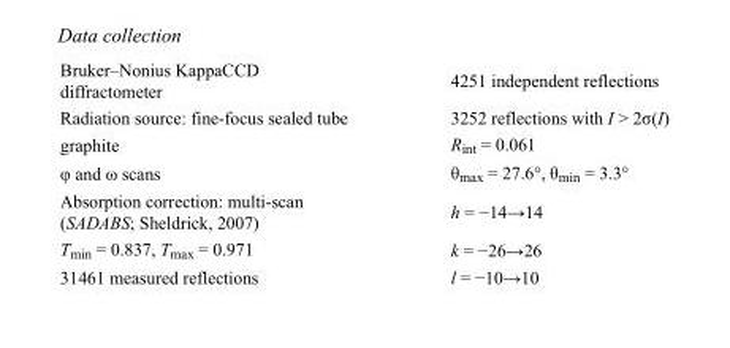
<table><tbody><tr><td>Bruker–Nonius KappaCCD diffractometer</td><td>4251 independent reflections</td></tr><tr><td>Radiation source: fine-focus sealed tube</td><td>3252 reflections with I &gt; 2σ(I)</td></tr><tr><td>graphite</td><td>R<sub>int</sub> = 0.061</td></tr><tr><td>φ and ω scans</td><td>θ<sub>max</sub> = 27.6°, θ<sub>min</sub> = 3.3°</td></tr><tr><td>Absorption correction: multi-scan (SADABS; Sheldrick, 2007)</td><td>h = −14→14</td></tr><tr><td>T<sub>min</sub> = 0.837, T<sub>max</sub> = 0.971</td><td>k = −26→26</td></tr><tr><td>31461 measured reflections</td><td>l = −10→10</td></tr></tbody></table>